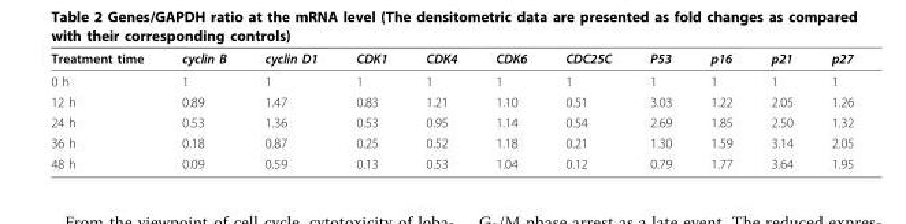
<table><thead><tr><td>Treatment time</td><td>cyclin B</td><td>cyclin D1</td><td>CDK1</td><td>CDK4</td><td>CDK6</td><td>CDC25C</td><td>P53</td><td>p16</td><td>p21</td><td>p27</td></tr></thead><tbody><tr><td>0 h</td><td>1</td><td>1</td><td>1</td><td>1</td><td>1</td><td>1</td><td>1</td><td>1</td><td>1</td><td>1</td></tr><tr><td>12 h</td><td>0.89</td><td>1.47</td><td>0.83</td><td>1.21</td><td>1.10</td><td>0.51</td><td>3.03</td><td>1.22</td><td>2.05</td><td>1.26</td></tr><tr><td>24 h</td><td>0.53</td><td>1.36</td><td>0.53</td><td>0.95</td><td>1.14</td><td>0.54</td><td>2.69</td><td>1.85</td><td>2.50</td><td>1.32</td></tr><tr><td>36 h</td><td>0.18</td><td>0.87</td><td>0.25</td><td>0.52</td><td>1.18</td><td>0.21</td><td>1.30</td><td>1.59</td><td>3.14</td><td>2.05</td></tr><tr><td>48 h</td><td>0.09</td><td>0.59</td><td>0.13</td><td>0.53</td><td>1.04</td><td>0.12</td><td>0.79</td><td>1.77</td><td>3.64</td><td>1.95</td></tr></tbody></table>